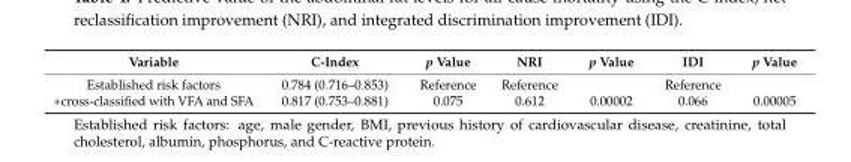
<table><thead><tr><td>Variable</td><td>C-Index</td><td>p Value</td><td>NRI</td><td>p Value</td><td>IDI</td><td>p Value</td></tr></thead><tbody><tr><td>Established risk factors</td><td>0.784 (0.716–0.853)</td><td>Reference</td><td>Reference</td><td></td><td>Reference</td><td></td></tr><tr><td>+cross-classified with VFA and SFA</td><td>0.817 (0.753–0.881)</td><td>0.075</td><td>0.612</td><td>0.00002</td><td>0.066</td><td>0.00005</td></tr></tbody></table>